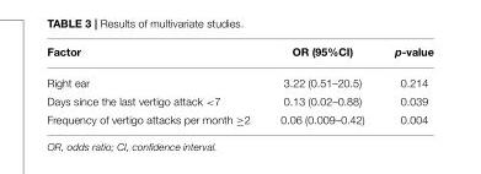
<table><thead><tr><td>Factor</td><td>OR (95%CI)</td><td>p-value</td></tr></thead><tbody><tr><td>Right ear</td><td>3.22 (0.51–20.5)</td><td>0.214</td></tr><tr><td>Days since the last vertigo attack &lt;7</td><td>0.13 (0.02–0.88)</td><td>0.039</td></tr><tr><td>Frequency of vertigo attacks per month ≥2</td><td>0.06 (0.009–0.42)</td><td>0.004</td></tr></tbody></table>